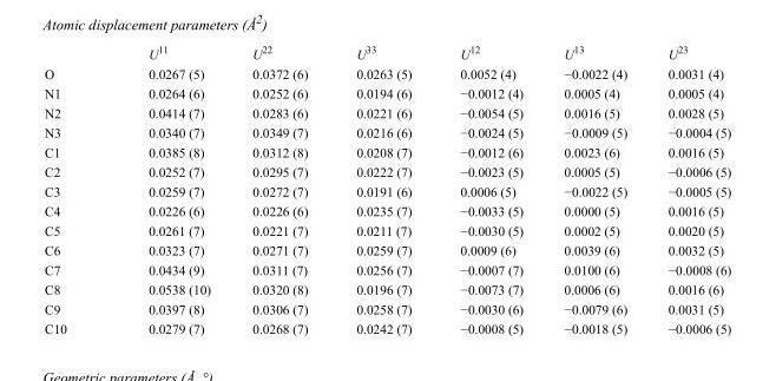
<table><thead><tr><td></td><td>U<sup>11</sup></td><td>U<sup>22</sup></td><td>U<sup>33</sup></td><td>U<sup>12</sup></td><td>U<sup>13</sup></td><td>U<sup>23</sup></td></tr></thead><tbody><tr><td>O</td><td>0.0267 (5)</td><td>0.0372 (6)</td><td>0.0263 (5)</td><td>0.0052 (4)</td><td>−0.0022 (4)</td><td>0.0031 (4)</td></tr><tr><td>N1</td><td>0.0264 (6)</td><td>0.0252 (6)</td><td>0.0194 (6)</td><td>−0.0012 (4)</td><td>0.0005 (4)</td><td>0.0005 (4)</td></tr><tr><td>N2</td><td>0.0414 (7)</td><td>0.0283 (6)</td><td>0.0221 (6)</td><td>−0.0054 (5)</td><td>0.0016 (5)</td><td>0.0028 (5)</td></tr><tr><td>N3</td><td>0.0340 (7)</td><td>0.0349 (7)</td><td>0.0216 (6)</td><td>−0.0024 (5)</td><td>−0.0009 (5)</td><td>−0.0004 (5)</td></tr><tr><td>C1</td><td>0.0385 (8)</td><td>0.0312 (8)</td><td>0.0208 (7)</td><td>−0.0012 (6)</td><td>0.0023 (6)</td><td>0.0016 (5)</td></tr><tr><td>C2</td><td>0.0252 (7)</td><td>0.0295 (7)</td><td>0.0222 (7)</td><td>−0.0023 (5)</td><td>0.0005 (5)</td><td>−0.0006 (5)</td></tr><tr><td>C3</td><td>0.0259 (7)</td><td>0.0272 (7)</td><td>0.0191 (6)</td><td>0.0006 (5)</td><td>−0.0022 (5)</td><td>−0.0005 (5)</td></tr><tr><td>C4</td><td>0.0226 (6)</td><td>0.0226 (6)</td><td>0.0235 (7)</td><td>−0.0033 (5)</td><td>0.0000 (5)</td><td>0.0016 (5)</td></tr><tr><td>C5</td><td>0.0261 (7)</td><td>0.0221 (7)</td><td>0.0211 (7)</td><td>−0.0030 (5)</td><td>0.0002 (5)</td><td>0.0020 (5)</td></tr><tr><td>C6</td><td>0.0323 (7)</td><td>0.0271 (7)</td><td>0.0259 (7)</td><td>0.0009 (6)</td><td>0.0039 (6)</td><td>0.0032 (5)</td></tr><tr><td>C7</td><td>0.0434 (9)</td><td>0.0311 (7)</td><td>0.0256 (7)</td><td>−0.0007 (7)</td><td>0.0100 (6)</td><td>−0.0008 (6)</td></tr><tr><td>C8</td><td>0.0538 (10)</td><td>0.0320 (8)</td><td>0.0196 (7)</td><td>−0.0073 (7)</td><td>0.0006 (6)</td><td>0.0016 (6)</td></tr><tr><td>C9</td><td>0.0397 (8)</td><td>0.0306 (7)</td><td>0.0258 (7)</td><td>−0.0030 (6)</td><td>−0.0079 (6)</td><td>0.0031 (5)</td></tr><tr><td>C10</td><td>0.0279 (7)</td><td>0.0268 (7)</td><td>0.0242 (7)</td><td>−0.0008 (5)</td><td>−0.0018 (5)</td><td>−0.0006 (5)</td></tr></tbody></table>